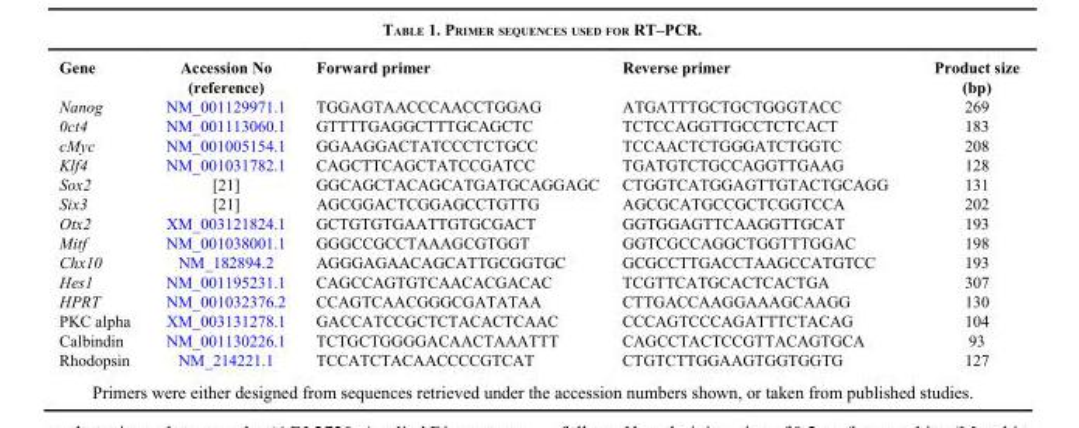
<table><thead><tr><td>Gene</td><td>Accession No (reference)</td><td>Forward primer</td><td>Reverse primer</td><td>Product size (bp)</td></tr></thead><tbody><tr><td>Nanog</td><td>NM_001129971.1</td><td>TGGAGTAACCCAACCTGGAG</td><td>ATGATTTGCTGCTGGGTACC</td><td>269</td></tr><tr><td>0ct4</td><td>NM_001113060.1</td><td>GTTTTGAGGCTTTGCAGCTC</td><td>TCTCCAGGTTGCCTCTCACT</td><td>183</td></tr><tr><td>cMyc</td><td>NM_001005154.1</td><td>GGAAGGACTATCCCTCTGCC</td><td>TCCAACTCTGGGATCTGGTC</td><td>208</td></tr><tr><td>Klf4</td><td>NM_001031782.1</td><td>CAGCTTCAGCTATCCGATCC</td><td>TGATGTCTGCCAGGTTGAAG</td><td>128</td></tr><tr><td>Sox2</td><td>[21]</td><td>GGCAGCTACAGCATGATGCAGGAGC</td><td>CTGGTCATGGAGTTGTACTGCAGG</td><td>131</td></tr><tr><td>Six3</td><td>[21]</td><td>AGCGGACTCGGAGCCTGTTG</td><td>AGCGCATGCCGCTCGGTCCA</td><td>202</td></tr><tr><td>Otx2</td><td>XM_003121824.1</td><td>GCTGTGTGAATTGTGCGACT</td><td>GGTGGAGTTCAAGGTTGCAT</td><td>193</td></tr><tr><td>Mitf</td><td>NM_001038001.1</td><td>GGGCCGCCTAAAGCGTGGT</td><td>GGTCGCCAGGCTGGTTTGGAC</td><td>198</td></tr><tr><td>Chx10</td><td>NM_182894.2</td><td>AGGGAGAACAGCATTGCGGTGC</td><td>GCGCCTTGACCTAAGCCATGTCC</td><td>193</td></tr><tr><td>Hes1</td><td>NM_001195231.1</td><td>CAGCCAGTGTCAACACGACAC</td><td>TCGTTCATGCACTCACTGA</td><td>307</td></tr><tr><td>HPRT</td><td>NM_001032376.2</td><td>CCAGTCAACGGGCGATATAA</td><td>CTTGACCAAGGAAAGCAAGG</td><td>130</td></tr><tr><td>PKC alpha</td><td>XM_003131278.1</td><td>GACCATCCGCTCTACACTCAAC</td><td>CCCAGTCCCAGATTTCTACAG</td><td>104</td></tr><tr><td>Calbindin</td><td>NM_001130226.1</td><td>TCTGCTGGGGACAACTAAATTT</td><td>CAGCCTACTCCGTTACAGTGCA</td><td>93</td></tr><tr><td>Rhodopsin</td><td>NM_214221.1</td><td>TCCATCTACAACCCCGTCAT</td><td>CTGTCTTGGAAGTGGTGGTG</td><td>127</td></tr></tbody></table>